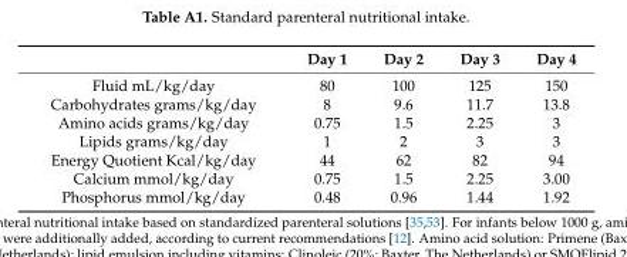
<table><thead><tr><td></td><td>Day 1</td><td>Day 2</td><td>Day 3</td><td>Day 4</td></tr></thead><tbody><tr><td>Fluid mL/kg/day</td><td>80</td><td>100</td><td>125</td><td>150</td></tr><tr><td>Carbohydrates grams/kg/day</td><td>8</td><td>9.6</td><td>11.7</td><td>13.8</td></tr><tr><td>Amino acids grams/kg/day</td><td>0.75</td><td>1.5</td><td>2.25</td><td>3</td></tr><tr><td>Lipids grams/kg/day</td><td>1</td><td>2</td><td>3</td><td>3</td></tr><tr><td>Energy Quotient Kcal/kg/day</td><td>44</td><td>62</td><td>82</td><td>94</td></tr><tr><td>Calcium mmol/kg/day</td><td>0.75</td><td>1.5</td><td>2.25</td><td>3.00</td></tr><tr><td>Phosphorus mmol/kg/day</td><td>0.48</td><td>0.96</td><td>1.44</td><td>1.92</td></tr></tbody></table>